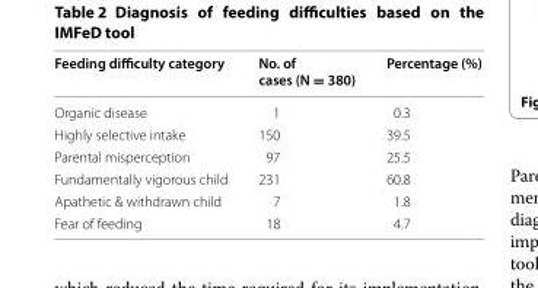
<table><thead><tr><td>Feeding difficulty category</td><td>No. of cases (N = 380)</td><td>Percentage (%)</td></tr></thead><tbody><tr><td>Organic disease</td><td>1</td><td>0.3</td></tr><tr><td>Highly selective intake</td><td>150</td><td>39.5</td></tr><tr><td>Parental misperception</td><td>97</td><td>25.5</td></tr><tr><td>Fundamentally vigorous child</td><td>231</td><td>60.8</td></tr><tr><td>Apathetic &amp; withdrawn child</td><td>7</td><td>1.8</td></tr><tr><td>Fear of feeding</td><td>18</td><td>4.7</td></tr></tbody></table>